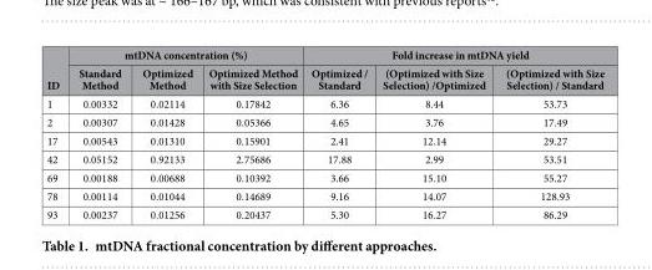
<table><thead><tr><td rowspan="2">ID</td><td colspan="3">mtDNA concentration (%)</td><td colspan="3">Fold increase in mtDNA yield</td></tr><tr><td>Standard Method</td><td>Optimized Method</td><td>Optimized Method with Size Selection</td><td>Optimized / Standard</td><td>(Optimized with Size Selection) /Optimized</td><td>(Optimized with Size Selection) / Standard</td></tr></thead><tbody><tr><td>1</td><td>0.00332</td><td>0.02114</td><td>0.17842</td><td>6.36</td><td>8.44</td><td>53.73</td></tr><tr><td>2</td><td>0.00307</td><td>0.01428</td><td>0.05366</td><td>4.65</td><td>3.76</td><td>17.49</td></tr><tr><td>17</td><td>0.00543</td><td>0.01310</td><td>0.15901</td><td>2.41</td><td>12.14</td><td>29.27</td></tr><tr><td>42</td><td>0.05152</td><td>0.92133</td><td>2.75686</td><td>17.88</td><td>2.99</td><td>53.51</td></tr><tr><td>69</td><td>0.00188</td><td>0.00688</td><td>0.10392</td><td>3.66</td><td>15.10</td><td>55.27</td></tr><tr><td>78</td><td>0.00114</td><td>0.01044</td><td>0.14689</td><td>9.16</td><td>14.07</td><td>128.93</td></tr><tr><td>93</td><td>0.00237</td><td>0.01256</td><td>0.20437</td><td>5.30</td><td>16.27</td><td>86.29</td></tr></tbody></table>